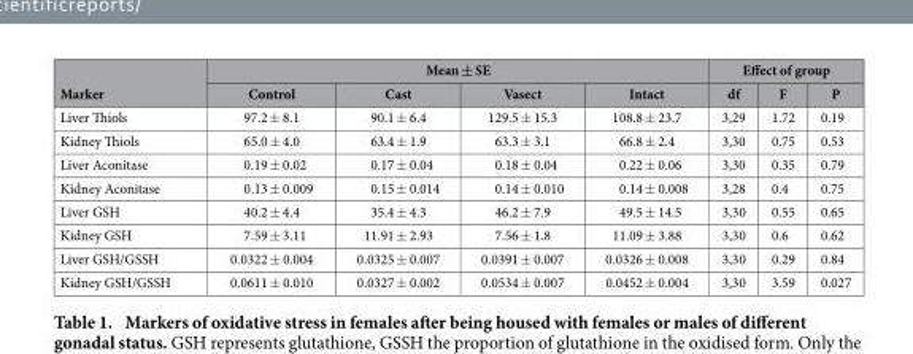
<table><thead><tr><td rowspan="2">Marker</td><td colspan="4">Mean ± SE</td><td colspan="3">Effect of group</td></tr><tr><td>Control</td><td>Cast</td><td>Vasect</td><td>Intact</td><td>df</td><td>F</td><td>P</td></tr></thead><tbody><tr><td>Liver Thiols</td><td>97.2 ± 8.1</td><td>90.1 ± 6.4</td><td>129.5 ± 15.3</td><td>108.8 ± 23.7</td><td>3,29</td><td>1.72</td><td>0.19</td></tr><tr><td>Kidney Thiols</td><td>65.0 ± 4.0</td><td>63.4 ± 1.9</td><td>63.3 ± 3.1</td><td>66.8 ± 2.4</td><td>3,30</td><td>0.75</td><td>0.53</td></tr><tr><td>Liver Aconitase</td><td>0.19 ± 0.02</td><td>0.17 ± 0.04</td><td>0.18 ± 0.04</td><td>0.22 ± 0.06</td><td>3,30</td><td>0.35</td><td>0.79</td></tr><tr><td>Kidney Aconitase</td><td>0.13 ± 0.009</td><td>0.15 ± 0.014</td><td>0.14 ± 0.010</td><td>0.14 ± 0.008</td><td>3,28</td><td>0.4</td><td>0.75</td></tr><tr><td>Liver GSH</td><td>40.2 ± 4.4</td><td>35.4 ± 4.3</td><td>46.2 ± 7.9</td><td>49.5 ± 14.5</td><td>3,30</td><td>0.55</td><td>0.65</td></tr><tr><td>Kidney GSH</td><td>7.59 ± 3.11</td><td>11.91 ± 2.93</td><td>7.56 ± 1.8</td><td>11.09 ± 3.88</td><td>3,30</td><td>0.6</td><td>0.62</td></tr><tr><td>Liver GSH/GSSH</td><td>0.0322 ± 0.004</td><td>0.0325 ± 0.007</td><td>0.0391 ± 0.007</td><td>0.0326 ± 0.008</td><td>3,30</td><td>0.29</td><td>0.84</td></tr><tr><td>Kidney GSH/GSSH</td><td>0.0611 ± 0.010</td><td>0.0327 ± 0.002</td><td>0.0534 ± 0.007</td><td>0.0452 ± 0.004</td><td>3,30</td><td>3.59</td><td>0.027</td></tr></tbody></table>